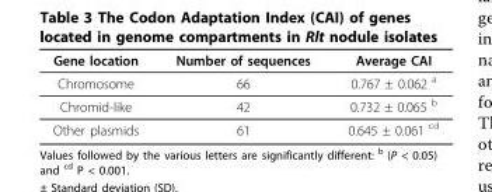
<table><thead><tr><td>Gene location</td><td>Number of sequences</td><td>Average CAI</td></tr></thead><tbody><tr><td>Chromosome</td><td>66</td><td>0.767 ± 0.062 <sup>a</sup></td></tr><tr><td>Chromid-like</td><td>42</td><td>0.732 ± 0.065 <sup>b</sup></td></tr><tr><td>Other plasmids</td><td>61</td><td>0.645 ± 0.061 <sup>cd</sup></td></tr></tbody></table>